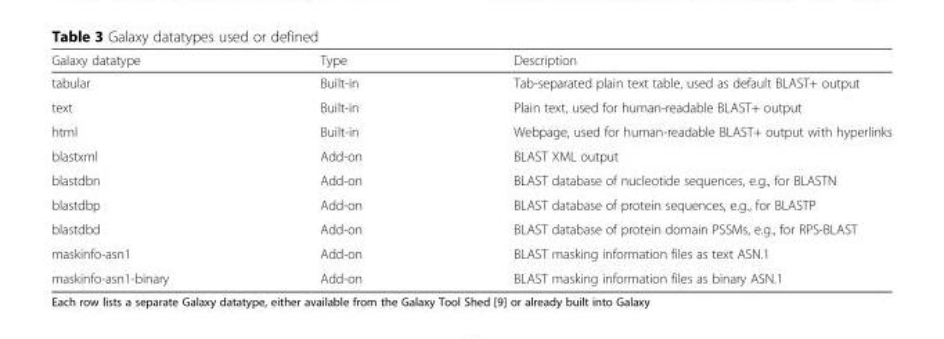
<table><thead><tr><td>Galaxy datatype</td><td>Type</td><td>Description</td></tr></thead><tbody><tr><td>tabular</td><td>Built-in</td><td>Tab-separated plain text table, used as default BLAST+ output</td></tr><tr><td>text</td><td>Built-in</td><td>Plain text, used for human-readable BLAST+ output</td></tr><tr><td>html</td><td>Built-in</td><td>Webpage, used for human-readable BLAST+ output with hyperlinks</td></tr><tr><td>blastxml</td><td>Add-on</td><td>BLAST XML output</td></tr><tr><td>blastdbn</td><td>Add-on</td><td>BLAST database of nucleotide sequences, e.g., for BLASTN</td></tr><tr><td>blastdbp</td><td>Add-on</td><td>BLAST database of protein sequences, e.g., for BLASTP</td></tr><tr><td>blastdbd</td><td>Add-on</td><td>BLAST database of protein domain PSSMs, e.g., for RPS-BLAST</td></tr><tr><td>maskinfo-asn1</td><td>Add-on</td><td>BLAST masking information files as text ASN.1</td></tr><tr><td>maskinfo-asn1-binary</td><td>Add-on</td><td>BLAST masking information files as binary ASN.1</td></tr></tbody></table>